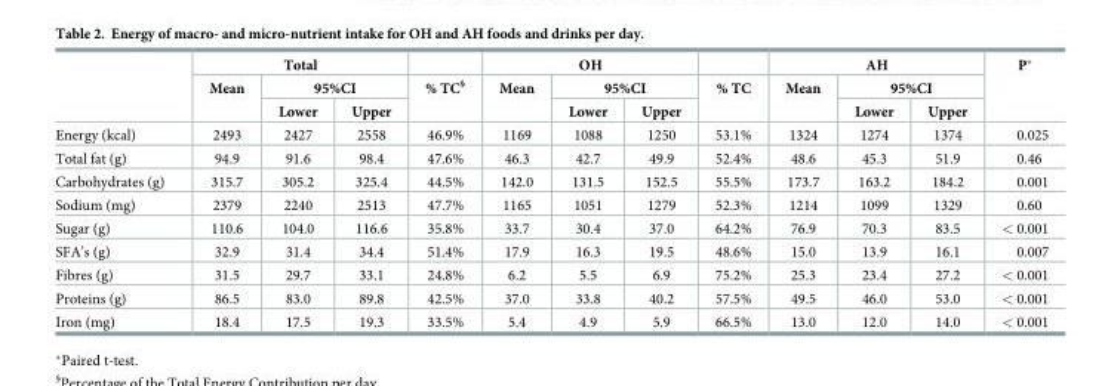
<table><thead><tr><td rowspan="3"></td><td colspan="3">Total</td><td rowspan="3">% TC<sup>§</sup></td><td colspan="3">OH</td><td rowspan="3">% TC</td><td colspan="3">AH</td><td rowspan="3">P*</td></tr><tr><td rowspan="2">Mean</td><td colspan="2">95%CI</td><td rowspan="2">Mean</td><td colspan="2">95%CI</td><td rowspan="2">Mean</td><td colspan="2">95%CI</td></tr><tr><td>Lower</td><td>Upper</td><td>Lower</td><td>Upper</td><td>Lower</td><td>Upper</td></tr></thead><tbody><tr><td>Energy (kcal)</td><td>2493</td><td>2427</td><td>2558</td><td>46.9%</td><td>1169</td><td>1088</td><td>1250</td><td>53.1%</td><td>1324</td><td>1274</td><td>1374</td><td>0.025</td></tr><tr><td>Total fat (g)</td><td>94.9</td><td>91.6</td><td>98.4</td><td>47.6%</td><td>46.3</td><td>42.7</td><td>49.9</td><td>52.4%</td><td>48.6</td><td>45.3</td><td>51.9</td><td>0.46</td></tr><tr><td>Carbohydrates (g)</td><td>315.7</td><td>305.2</td><td>325.4</td><td>44.5%</td><td>142.0</td><td>131.5</td><td>152.5</td><td>55.5%</td><td>173.7</td><td>163.2</td><td>184.2</td><td>0.001</td></tr><tr><td>Sodium (mg)</td><td>2379</td><td>2240</td><td>2513</td><td>47.7%</td><td>1165</td><td>1051</td><td>1279</td><td>52.3%</td><td>1214</td><td>1099</td><td>1329</td><td>0.60</td></tr><tr><td>Sugar (g)</td><td>110.6</td><td>104.0</td><td>116.6</td><td>35.8%</td><td>33.7</td><td>30.4</td><td>37.0</td><td>64.2%</td><td>76.9</td><td>70.3</td><td>83.5</td><td>&lt; 0.001</td></tr><tr><td>SFA’s (g)</td><td>32.9</td><td>31.4</td><td>34.4</td><td>51.4%</td><td>17.9</td><td>16.3</td><td>19.5</td><td>48.6%</td><td>15.0</td><td>13.9</td><td>16.1</td><td>0.007</td></tr><tr><td>Fibres (g)</td><td>31.5</td><td>29.7</td><td>33.1</td><td>24.8%</td><td>6.2</td><td>5.5</td><td>6.9</td><td>75.2%</td><td>25.3</td><td>23.4</td><td>27.2</td><td>&lt; 0.001</td></tr><tr><td>Proteins (g)</td><td>86.5</td><td>83.0</td><td>89.8</td><td>42.5%</td><td>37.0</td><td>33.8</td><td>40.2</td><td>57.5%</td><td>49.5</td><td>46.0</td><td>53.0</td><td>&lt; 0.001</td></tr><tr><td>Iron (mg)</td><td>18.4</td><td>17.5</td><td>19.3</td><td>33.5%</td><td>5.4</td><td>4.9</td><td>5.9</td><td>66.5%</td><td>13.0</td><td>12.0</td><td>14.0</td><td>&lt; 0.001</td></tr></tbody></table>